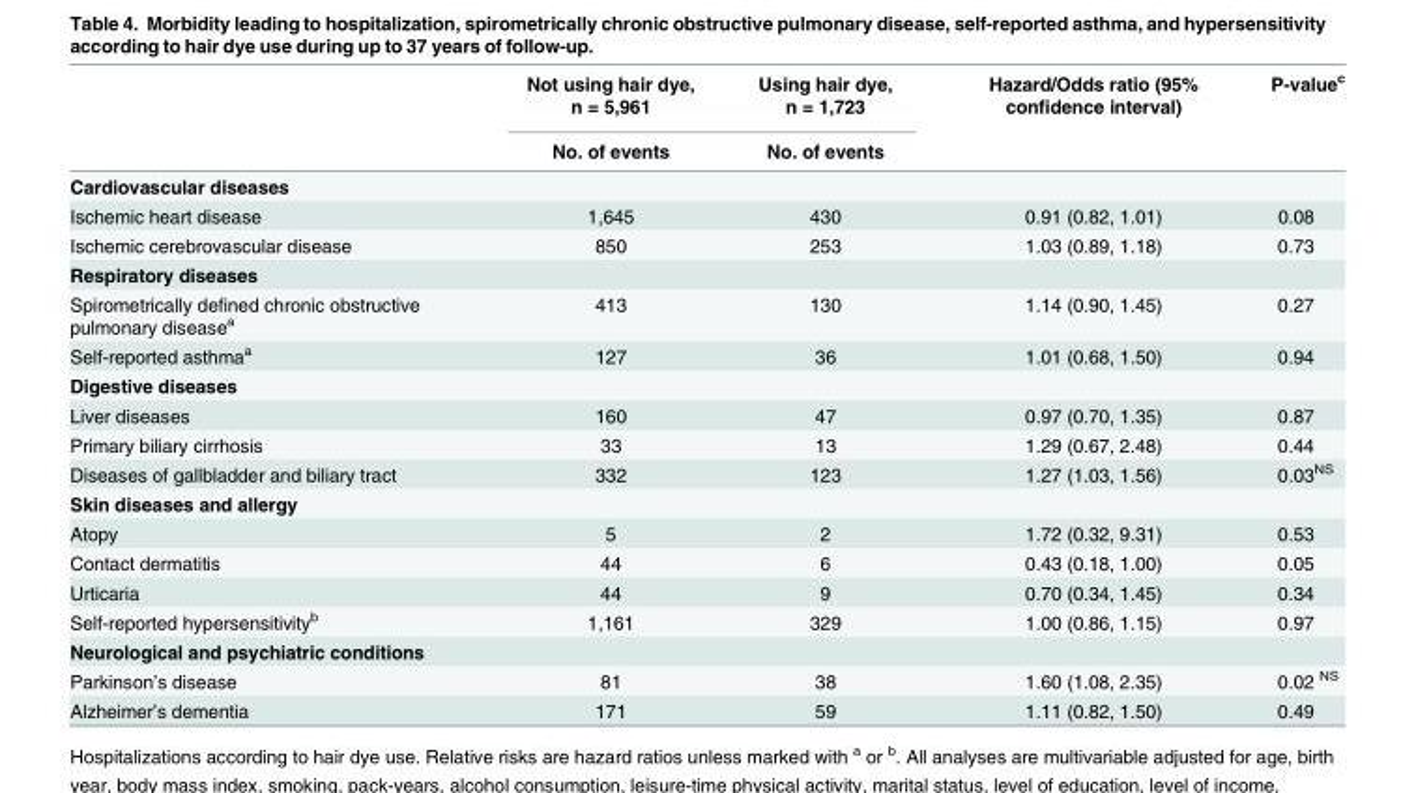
<table><thead><tr><td rowspan="2"></td><td rowspan="2">Not using hair dye, n = 5,961 No. of events</td><td rowspan="2">Using hair dye, n = 1,723 No. of events</td><td rowspan="2">Hazard/Odds ratio (95% confidence interval)</td><td rowspan="2">P-value<sup>c</sup></td></tr><tr></tr></thead><tbody><tr><td colspan="5">Cardiovascular diseases</td></tr><tr><td>Ischemic heart disease</td><td>1,645</td><td>430</td><td>0.91 (0.82, 1.01)</td><td>0.08</td></tr><tr><td>Ischemic cerebrovascular disease</td><td>850</td><td>253</td><td>1.03 (0.89, 1.18)</td><td>0.73</td></tr><tr><td colspan="5">Respiratory diseases</td></tr><tr><td>Spirometrically defined chronic obstructive pulmonary disease<sup>a</sup></td><td>413</td><td>130</td><td>1.14 (0.90, 1.45)</td><td>0.27</td></tr><tr><td>Self-reported asthma<sup>a</sup></td><td>127</td><td>36</td><td>1.01 (0.68, 1.50)</td><td>0.94</td></tr><tr><td colspan="5">Digestive diseases</td></tr><tr><td>Liver diseases</td><td>160</td><td>47</td><td>0.97 (0.70, 1.35)</td><td>0.87</td></tr><tr><td>Primary biliary cirrhosis</td><td>33</td><td>13</td><td>1.29 (0.67, 2.48)</td><td>0.44</td></tr><tr><td>Diseases of gallbladder and biliary tract</td><td>332</td><td>123</td><td>1.27 (1.03, 1.56)</td><td>0.03<sup>NS</sup></td></tr><tr><td colspan="5">Skin diseases and allergy</td></tr><tr><td>Atopy</td><td>5</td><td>2</td><td>1.72 (0.32, 9.31)</td><td>0.53</td></tr><tr><td>Contact dermatitis</td><td>44</td><td>6</td><td>0.43 (0.18, 1.00)</td><td>0.05</td></tr><tr><td>Urticaria</td><td>44</td><td>9</td><td>0.70 (0.34, 1.45)</td><td>0.34</td></tr><tr><td>Self-reported hypersensitivity<sup>b</sup></td><td>1,161</td><td>329</td><td>1.00 (0.86, 1.15)</td><td>0.97</td></tr><tr><td colspan="5">Neurological and psychiatric conditions</td></tr><tr><td>Parkinson’s disease</td><td>81</td><td>38</td><td>1.60 (1.08, 2.35)</td><td>0.02 <sup>NS</sup></td></tr><tr><td>Alzheimer’s dementia</td><td>171</td><td>59</td><td>1.11 (0.82, 1.50)</td><td>0.49</td></tr></tbody></table>